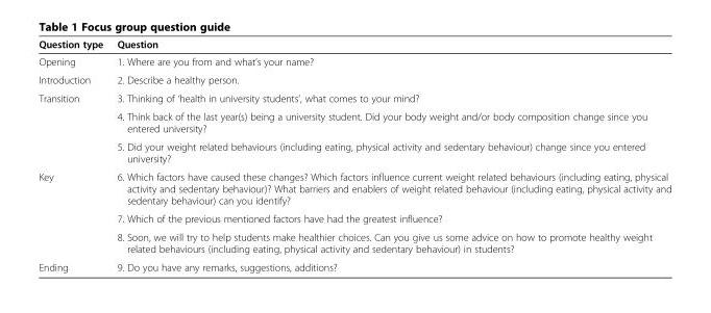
<table><thead><tr><td>Question type</td><td>Question</td></tr></thead><tbody><tr><td>Opening</td><td>1. Where are you from and what’s your name?</td></tr><tr><td>Introduction</td><td>2. Describe a healthy person.</td></tr><tr><td rowspan="3">Transition</td><td>3. Thinking of ‘health in university students’, what comes to your mind?</td></tr><tr><td>4. Think back of the last year(s) being a university student. Did your body weight and/or body composition change since you entered university?</td></tr><tr><td>5. Did your weight related behaviours (including eating, physical activity and sedentary behaviour) change since you entered university?</td></tr><tr><td rowspan="3">Key</td><td>6. Which factors have caused these changes? Which factors influence current weight related behaviours (including eating, physical activity and sedentary behaviour)? What barriers and enablers of weight related behaviour (including eating, physical activity and sedentary behaviour) can you identify?</td></tr><tr><td>7. Which of the previous mentioned factors have had the greatest influence?</td></tr><tr><td>8. Soon, we will try to help students make healthier choices. Can you give us some advice on how to promote healthy weight related behaviours (including eating, physical activity and sedentary behaviour) in students?</td></tr><tr><td>Ending</td><td>9. Do you have any remarks, suggestions, additions?</td></tr></tbody></table>